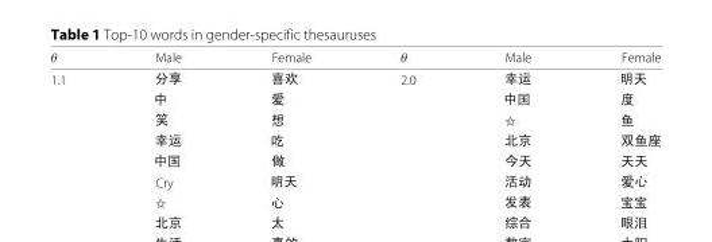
<table><thead><tr><td>θ</td><td>Male</td><td>Female</td><td>θ</td><td>Male</td><td>Female</td></tr></thead><tbody><tr><td rowspan="2">1.1</td><td></td><td></td><td>2.0</td><td></td><td></td></tr><tr><td>Cry</td><td></td><td></td><td></td><td></td></tr></tbody></table>